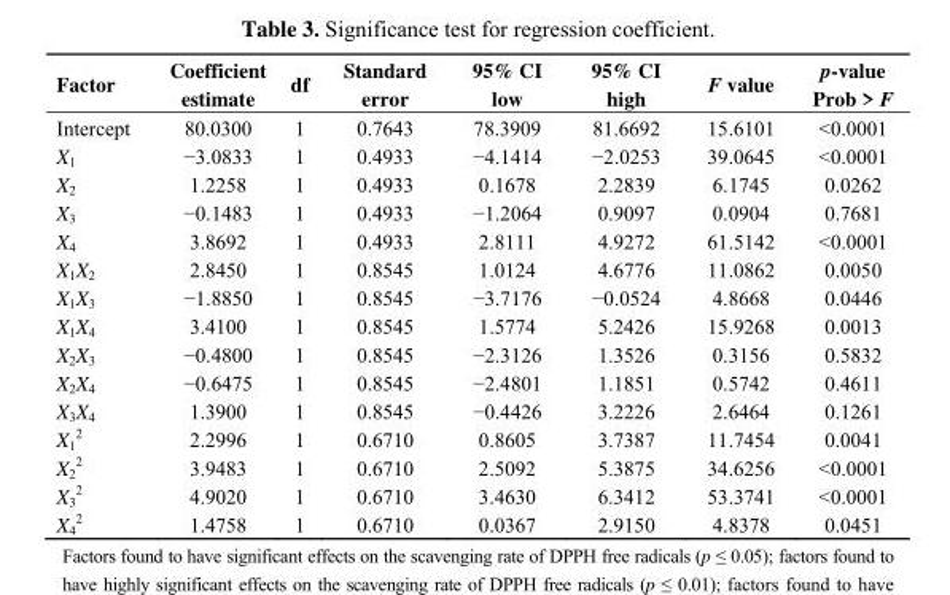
<table><thead><tr><td>Factor</td><td>Coefficient estimate</td><td>df</td><td>Standard error</td><td>95% CI low</td><td>95% CI high</td><td>F value</td><td>p-value Prob &gt; F</td></tr></thead><tbody><tr><td>Intercept</td><td>80.0300</td><td>1</td><td>0.7643</td><td>78.3909</td><td>81.6692</td><td>15.6101</td><td>&lt;0.0001</td></tr><tr><td>X<sup>1</sup></td><td>−3.0833</td><td>1</td><td>0.4933</td><td>−4.1414</td><td>−2.0253</td><td>39.0645</td><td>&lt;0.0001</td></tr><tr><td>X<sup>2</sup></td><td>1.2258</td><td>1</td><td>0.4933</td><td>0.1678</td><td>2.2839</td><td>6.1745</td><td>0.0262</td></tr><tr><td>X<sup>3</sup></td><td>−0.1483</td><td>1</td><td>0.4933</td><td>−1.2064</td><td>0.9097</td><td>0.0904</td><td>0.7681</td></tr><tr><td>X<sup>4</sup></td><td>3.8692</td><td>1</td><td>0.4933</td><td>2.8111</td><td>4.9272</td><td>61.5142</td><td>&lt;0.0001</td></tr><tr><td>X<sup>1</sup>X<sup>2</sup></td><td>2.8450</td><td>1</td><td>0.8545</td><td>1.0124</td><td>4.6776</td><td>11.0862</td><td>0.0050</td></tr><tr><td>X<sup>1</sup>X<sup>3</sup></td><td>−1.8850</td><td>1</td><td>0.8545</td><td>−3.7176</td><td>−0.0524</td><td>4.8668</td><td>0.0446</td></tr><tr><td>X<sup>1</sup>X<sup>4</sup></td><td>3.4100</td><td>1</td><td>0.8545</td><td>1.5774</td><td>5.2426</td><td>15.9268</td><td>0.0013</td></tr><tr><td>X<sup>2</sup>X<sup>3</sup></td><td>−0.4800</td><td>1</td><td>0.8545</td><td>−2.3126</td><td>1.3526</td><td>0.3156</td><td>0.5832</td></tr><tr><td>X<sup>2</sup>X<sup>4</sup></td><td>−0.6475</td><td>1</td><td>0.8545</td><td>−2.4801</td><td>1.1851</td><td>0.5742</td><td>0.4611</td></tr><tr><td>X<sup>3</sup>X<sup>4</sup></td><td>1.3900</td><td>1</td><td>0.8545</td><td>−0.4426</td><td>3.2226</td><td>2.6464</td><td>0.1261</td></tr><tr><td>X<sub>1</sub> <sup>2</sup></td><td>2.2996</td><td>1</td><td>0.6710</td><td>0.8605</td><td>3.7387</td><td>11.7454</td><td>0.0041</td></tr><tr><td>X<sub>2</sub> <sup>2</sup></td><td>3.9483</td><td>1</td><td>0.6710</td><td>2.5092</td><td>5.3875</td><td>34.6256</td><td>&lt;0.0001</td></tr><tr><td>X<sub>3</sub> <sup>2</sup></td><td>4.9020</td><td>1</td><td>0.6710</td><td>3.4630</td><td>6.3412</td><td>53.3741</td><td>&lt;0.0001</td></tr><tr><td>X<sub>4</sub> <sup>2</sup></td><td>1.4758</td><td>1</td><td>0.6710</td><td>0.0367</td><td>2.9150</td><td>4.8378</td><td>0.0451</td></tr></tbody></table>